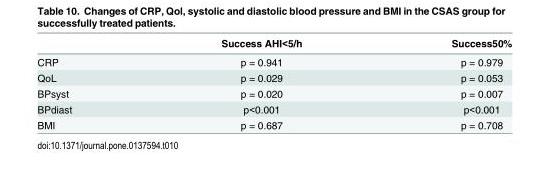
<table><thead><tr><td></td><td>Success AHI&lt;5/h</td><td>Success50%</td></tr></thead><tbody><tr><td>CRP</td><td>p = 0.941</td><td>p = 0.979</td></tr><tr><td>QoL</td><td>p = 0.029</td><td>p = 0.053</td></tr><tr><td>BPsyst</td><td>p = 0.020</td><td>p = 0.007</td></tr><tr><td>BPdiast</td><td>p&lt;0.001</td><td>p&lt;0.001</td></tr><tr><td>BMI</td><td>p = 0.687</td><td>p = 0.708</td></tr></tbody></table>